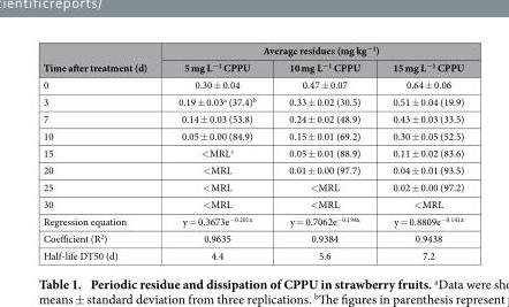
<table><thead><tr><td rowspan="2">Time after treatment (d)</td><td colspan="3">Average residues (mg kg<sup>−1</sup>)</td></tr><tr><td>5 mg L<sup>−1</sup> CPPU</td><td>10 mg L<sup>−1</sup> CPPU</td><td>15 mg L<sup>−1</sup> CPPU</td></tr></thead><tbody><tr><td>0</td><td>0.30 ± 0.04</td><td>0.47 ± 0.07</td><td>0.64 ± 0.06</td></tr><tr><td>3</td><td>0.19 ± 0.03<sup>a</sup> (37.4)<sup>b</sup></td><td>0.33 ± 0.02 (30.5)</td><td>0.51 ± 0.04 (19.9)</td></tr><tr><td>7</td><td>0.14 ± 0.03 (53.8)</td><td>0.24 ± 0.02 (48.9)</td><td>0.43 ± 0.03 (33.5)</td></tr><tr><td>10</td><td>0.05 ± 0.00 (84.9)</td><td>0.15 ± 0.01 (69.2)</td><td>0.30 ± 0.05 (52.5)</td></tr><tr><td>15</td><td>&lt; MRL<sup>c</sup></td><td>0.05 ± 0.01 (88.9)</td><td>0.11 ± 0.02 (83.6)</td></tr><tr><td>20</td><td>&lt; MRL</td><td>0.01 ± 0.00 (97.7)</td><td>0.04 ± 0.01 (93.5)</td></tr><tr><td>25</td><td>&lt; MRL</td><td>&lt; MRL</td><td>0.02 ± 0.00 (97.2)</td></tr><tr><td>30</td><td>&lt; MRL</td><td>&lt; MRL</td><td>&lt; MRL</td></tr><tr><td>Regression equation</td><td>y = 0.3673e<sup>−0.201x</sup></td><td>y = 0.7062e<sup>−0.194x</sup></td><td>y = 0.8809e<sup>−0.141x</sup></td></tr><tr><td>Coefficient (R<sup>2</sup>)</td><td>0.9635</td><td>0.9384</td><td>0.9438</td></tr><tr><td>Half-life DT50 (d)</td><td>4.4</td><td>5.6</td><td>7.2</td></tr></tbody></table>